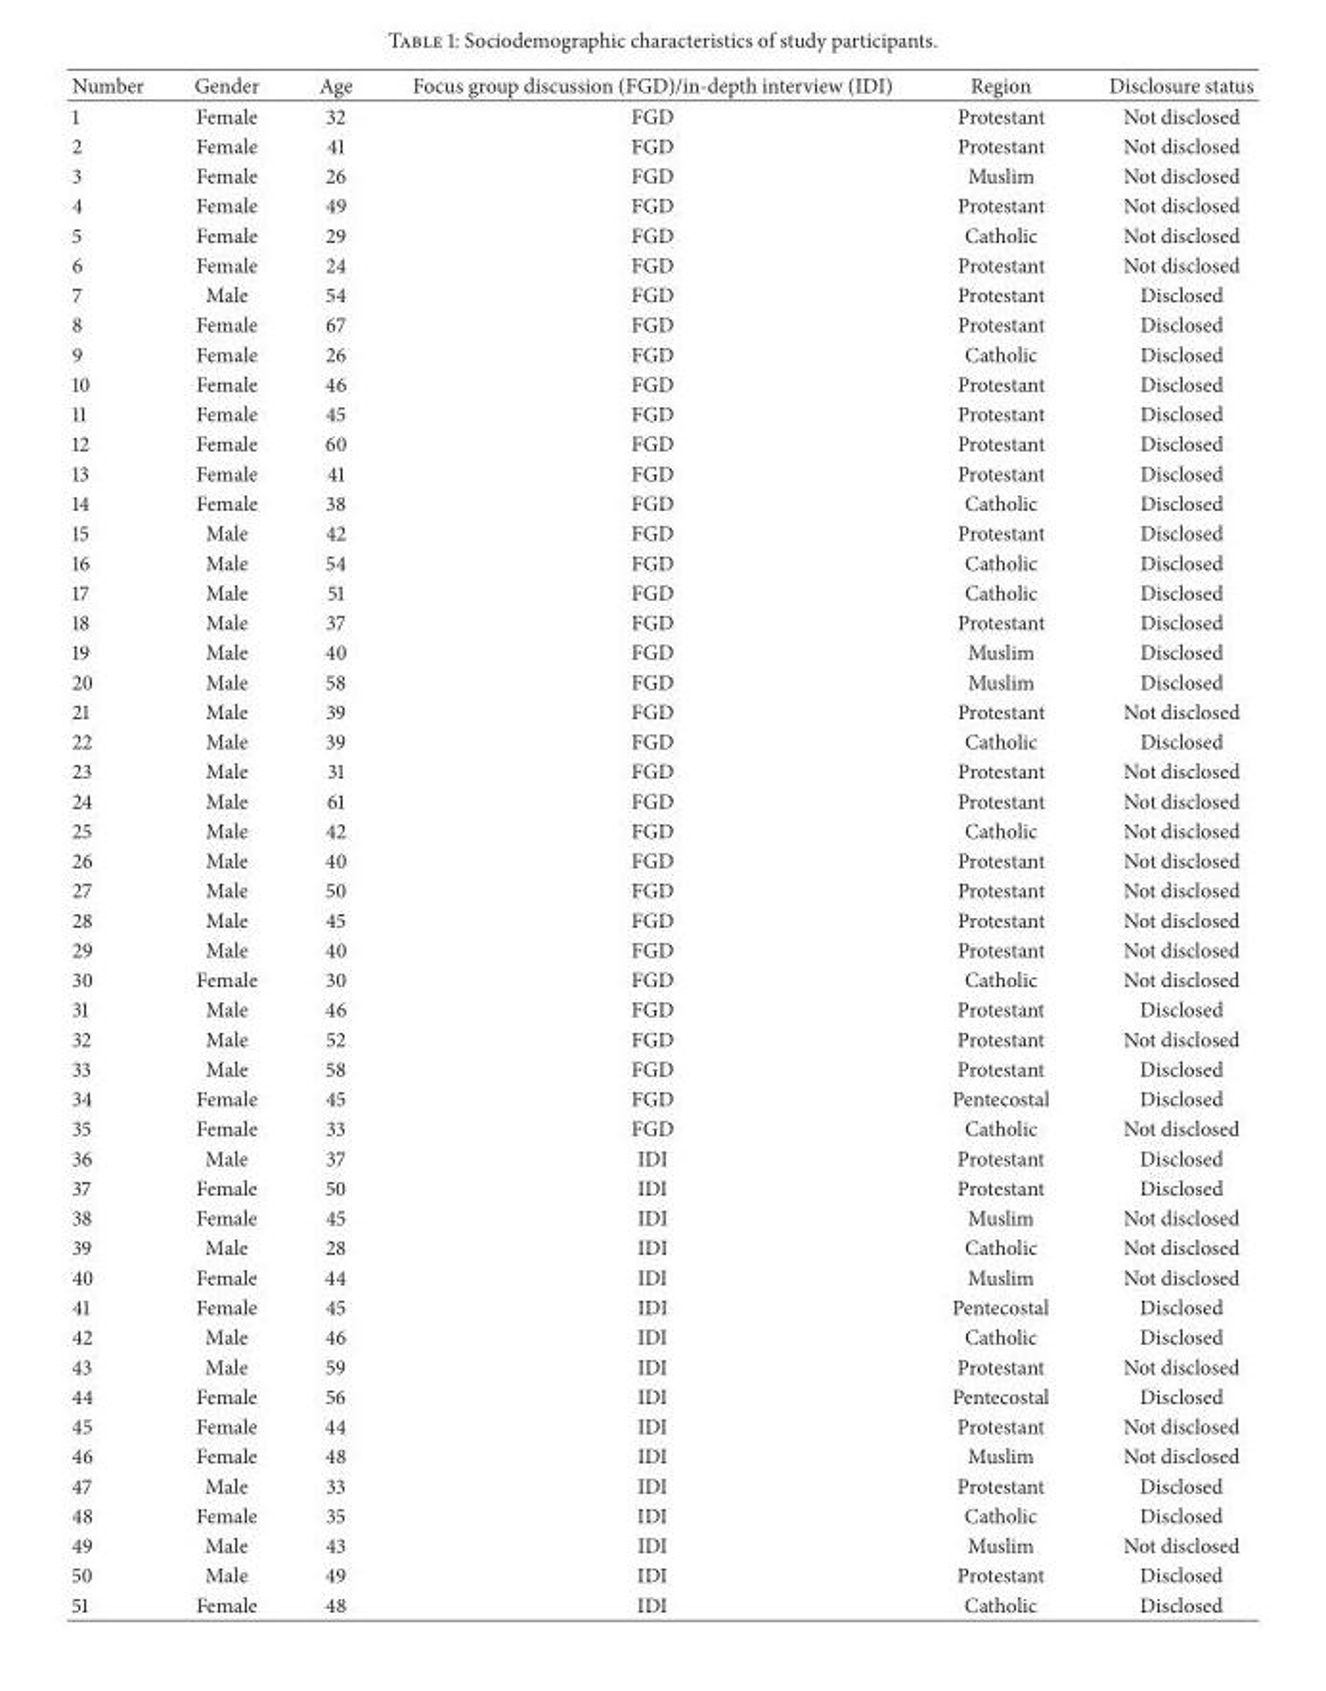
<table><thead><tr><td>Number</td><td>Gender</td><td>Age</td><td>Focus group discussion (FGD)/in-depth interview (IDI)</td><td>Region</td><td>Disclosure status</td></tr></thead><tbody><tr><td>1</td><td>Female</td><td>32</td><td>FGD</td><td>Protestant</td><td>Not disclosed</td></tr><tr><td>2</td><td>Female</td><td>41</td><td>FGD</td><td>Protestant</td><td>Not disclosed</td></tr><tr><td>3</td><td>Female</td><td>26</td><td>FGD</td><td>Muslim</td><td>Not disclosed</td></tr><tr><td>4</td><td>Female</td><td>49</td><td>FGD</td><td>Protestant</td><td>Not disclosed</td></tr><tr><td>5</td><td>Female</td><td>29</td><td>FGD</td><td>Catholic</td><td>Not disclosed</td></tr><tr><td>6</td><td>Female</td><td>24</td><td>FGD</td><td>Protestant</td><td>Not disclosed</td></tr><tr><td>7</td><td>Male</td><td>54</td><td>FGD</td><td>Protestant</td><td>Disclosed</td></tr><tr><td>8</td><td>Female</td><td>67</td><td>FGD</td><td>Protestant</td><td>Disclosed</td></tr><tr><td>9</td><td>Female</td><td>26</td><td>FGD</td><td>Catholic</td><td>Disclosed</td></tr><tr><td>10</td><td>Female</td><td>46</td><td>FGD</td><td>Protestant</td><td>Disclosed</td></tr><tr><td>11</td><td>Female</td><td>45</td><td>FGD</td><td>Protestant</td><td>Disclosed</td></tr><tr><td>12</td><td>Female</td><td>60</td><td>FGD</td><td>Protestant</td><td>Disclosed</td></tr><tr><td>13</td><td>Female</td><td>41</td><td>FGD</td><td>Protestant</td><td>Disclosed</td></tr><tr><td>14</td><td>Female</td><td>38</td><td>FGD</td><td>Catholic</td><td>Disclosed</td></tr><tr><td>15</td><td>Male</td><td>42</td><td>FGD</td><td>Protestant</td><td>Disclosed</td></tr><tr><td>16</td><td>Male</td><td>54</td><td>FGD</td><td>Catholic</td><td>Disclosed</td></tr><tr><td>17</td><td>Male</td><td>51</td><td>FGD</td><td>Catholic</td><td>Disclosed</td></tr><tr><td>18</td><td>Male</td><td>37</td><td>FGD</td><td>Protestant</td><td>Disclosed</td></tr><tr><td>19</td><td>Male</td><td>40</td><td>FGD</td><td>Muslim</td><td>Disclosed</td></tr><tr><td>20</td><td>Male</td><td>58</td><td>FGD</td><td>Muslim</td><td>Disclosed</td></tr><tr><td>21</td><td>Male</td><td>39</td><td>FGD</td><td>Protestant</td><td>Not disclosed</td></tr><tr><td>22</td><td>Male</td><td>39</td><td>FGD</td><td>Catholic</td><td>Disclosed</td></tr><tr><td>23</td><td>Male</td><td>31</td><td>FGD</td><td>Protestant</td><td>Not disclosed</td></tr><tr><td>24</td><td>Male</td><td>61</td><td>FGD</td><td>Protestant</td><td>Not disclosed</td></tr><tr><td>25</td><td>Male</td><td>42</td><td>FGD</td><td>Catholic</td><td>Not disclosed</td></tr><tr><td>26</td><td>Male</td><td>40</td><td>FGD</td><td>Protestant</td><td>Not disclosed</td></tr><tr><td>27</td><td>Male</td><td>50</td><td>FGD</td><td>Protestant</td><td>Not disclosed</td></tr><tr><td>28</td><td>Male</td><td>45</td><td>FGD</td><td>Protestant</td><td>Not disclosed</td></tr><tr><td>29</td><td>Male</td><td>40</td><td>FGD</td><td>Protestant</td><td>Not disclosed</td></tr><tr><td>30</td><td>Female</td><td>30</td><td>FGD</td><td>Catholic</td><td>Not disclosed</td></tr><tr><td>31</td><td>Male</td><td>46</td><td>FGD</td><td>Protestant</td><td>Disclosed</td></tr><tr><td>32</td><td>Male</td><td>52</td><td>FGD</td><td>Protestant</td><td>Not disclosed</td></tr><tr><td>33</td><td>Male</td><td>58</td><td>FGD</td><td>Protestant</td><td>Disclosed</td></tr><tr><td>34</td><td>Female</td><td>45</td><td>FGD</td><td>Pentecostal</td><td>Disclosed</td></tr><tr><td>35</td><td>Female</td><td>33</td><td>FGD</td><td>Catholic</td><td>Not disclosed</td></tr><tr><td>36</td><td>Male</td><td>37</td><td>IDI</td><td>Protestant</td><td>Disclosed</td></tr><tr><td>37</td><td>Female</td><td>50</td><td>IDI</td><td>Protestant</td><td>Disclosed</td></tr><tr><td>38</td><td>Female</td><td>45</td><td>IDI</td><td>Muslim</td><td>Not disclosed</td></tr><tr><td>39</td><td>Male</td><td>28</td><td>IDI</td><td>Catholic</td><td>Not disclosed</td></tr><tr><td>40</td><td>Female</td><td>44</td><td>IDI</td><td>Muslim</td><td>Not disclosed</td></tr><tr><td>41</td><td>Female</td><td>45</td><td>IDI</td><td>Pentecostal</td><td>Disclosed</td></tr><tr><td>42</td><td>Male</td><td>46</td><td>IDI</td><td>Catholic</td><td>Disclosed</td></tr><tr><td>43</td><td>Male</td><td>59</td><td>IDI</td><td>Protestant</td><td>Not disclosed</td></tr><tr><td>44</td><td>Female</td><td>56</td><td>IDI</td><td>Pentecostal</td><td>Disclosed</td></tr><tr><td>45</td><td>Female</td><td>44</td><td>IDI</td><td>Protestant</td><td>Not disclosed</td></tr><tr><td>46</td><td>Female</td><td>48</td><td>IDI</td><td>Muslim</td><td>Not disclosed</td></tr><tr><td>47</td><td>Male</td><td>33</td><td>IDI</td><td>Protestant</td><td>Disclosed</td></tr><tr><td>48</td><td>Female</td><td>35</td><td>IDI</td><td>Catholic</td><td>Disclosed</td></tr><tr><td>49</td><td>Male</td><td>43</td><td>IDI</td><td>Muslim</td><td>Not disclosed</td></tr><tr><td>50</td><td>Male</td><td>49</td><td>IDI</td><td>Protestant</td><td>Disclosed</td></tr><tr><td>51</td><td>Female</td><td>48</td><td>IDI</td><td>Catholic</td><td>Disclosed</td></tr></tbody></table>